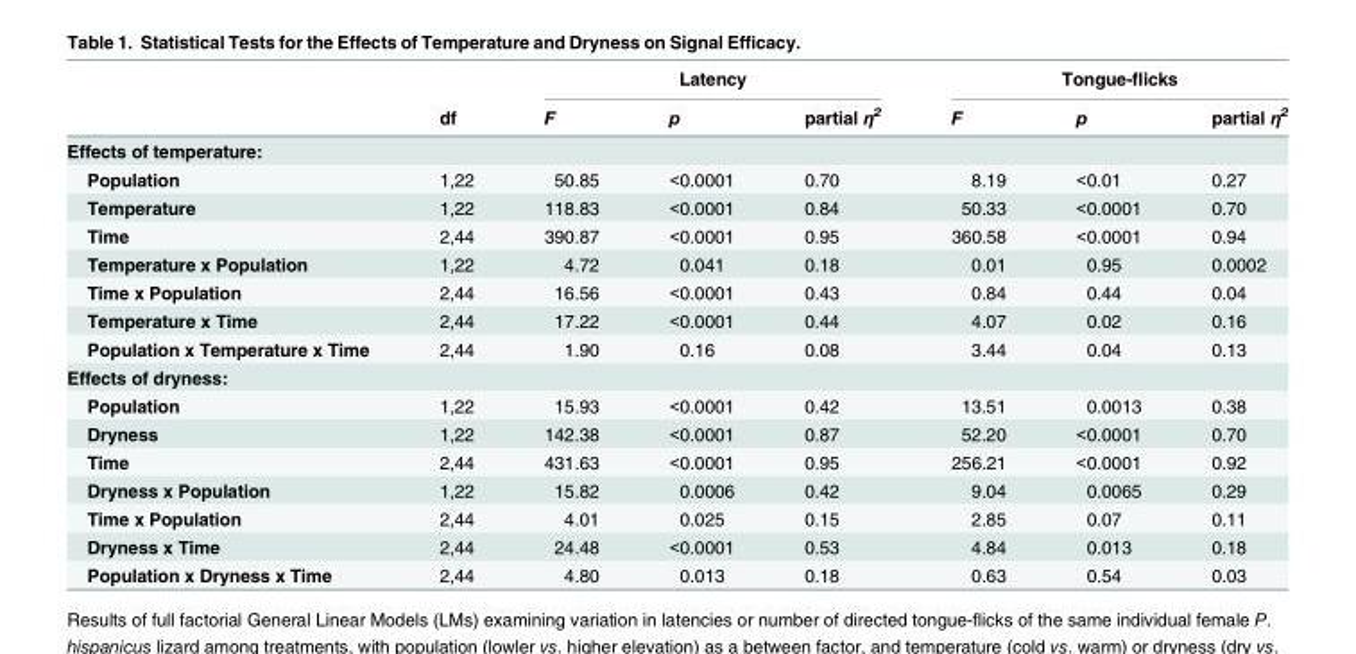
<table><thead><tr><td rowspan="2"></td><td rowspan="2">df</td><td colspan="3">Latency</td><td colspan="3">Tongue-flicks</td></tr><tr><td>F</td><td>p</td><td>partial η<sup>2</sup></td><td>F</td><td>p</td><td>partial η<sup>2</sup></td></tr></thead><tbody><tr><td colspan="8">Effects of temperature:</td></tr><tr><td>Population</td><td>1,22</td><td>50.85</td><td>&lt;0.0001</td><td>0.70</td><td>8.19</td><td>&lt;0.01</td><td>0.27</td></tr><tr><td>Temperature</td><td>1,22</td><td>118.83</td><td>&lt;0.0001</td><td>0.84</td><td>50.33</td><td>&lt;0.0001</td><td>0.70</td></tr><tr><td>Time</td><td>2,44</td><td>390.87</td><td>&lt;0.0001</td><td>0.95</td><td>360.58</td><td>&lt;0.0001</td><td>0.94</td></tr><tr><td>Temperature x Population</td><td>1,22</td><td>4.72</td><td>0.041</td><td>0.18</td><td>0.01</td><td>0.95</td><td>0.0002</td></tr><tr><td>Time x Population</td><td>2,44</td><td>16.56</td><td>&lt;0.0001</td><td>0.43</td><td>0.84</td><td>0.44</td><td>0.04</td></tr><tr><td>Temperature x Time</td><td>2,44</td><td>17.22</td><td>&lt;0.0001</td><td>0.44</td><td>4.07</td><td>0.02</td><td>0.16</td></tr><tr><td>Population x Temperature x Time</td><td>2,44</td><td>1.90</td><td>0.16</td><td>0.08</td><td>3.44</td><td>0.04</td><td>0.13</td></tr><tr><td colspan="8">Effects of dryness:</td></tr><tr><td>Population</td><td>1,22</td><td>15.93</td><td>&lt;0.0001</td><td>0.42</td><td>13.51</td><td>0.0013</td><td>0.38</td></tr><tr><td>Dryness</td><td>1,22</td><td>142.38</td><td>&lt;0.0001</td><td>0.87</td><td>52.20</td><td>&lt;0.0001</td><td>0.70</td></tr><tr><td>Time</td><td>2,44</td><td>431.63</td><td>&lt;0.0001</td><td>0.95</td><td>256.21</td><td>&lt;0.0001</td><td>0.92</td></tr><tr><td>Dryness x Population</td><td>1,22</td><td>15.82</td><td>0.0006</td><td>0.42</td><td>9.04</td><td>0.0065</td><td>0.29</td></tr><tr><td>Time x Population</td><td>2,44</td><td>4.01</td><td>0.025</td><td>0.15</td><td>2.85</td><td>0.07</td><td>0.11</td></tr><tr><td>Dryness x Time</td><td>2,44</td><td>24.48</td><td>&lt;0.0001</td><td>0.53</td><td>4.84</td><td>0.013</td><td>0.18</td></tr><tr><td>Population x Dryness x Time</td><td>2,44</td><td>4.80</td><td>0.013</td><td>0.18</td><td>0.63</td><td>0.54</td><td>0.03</td></tr></tbody></table>